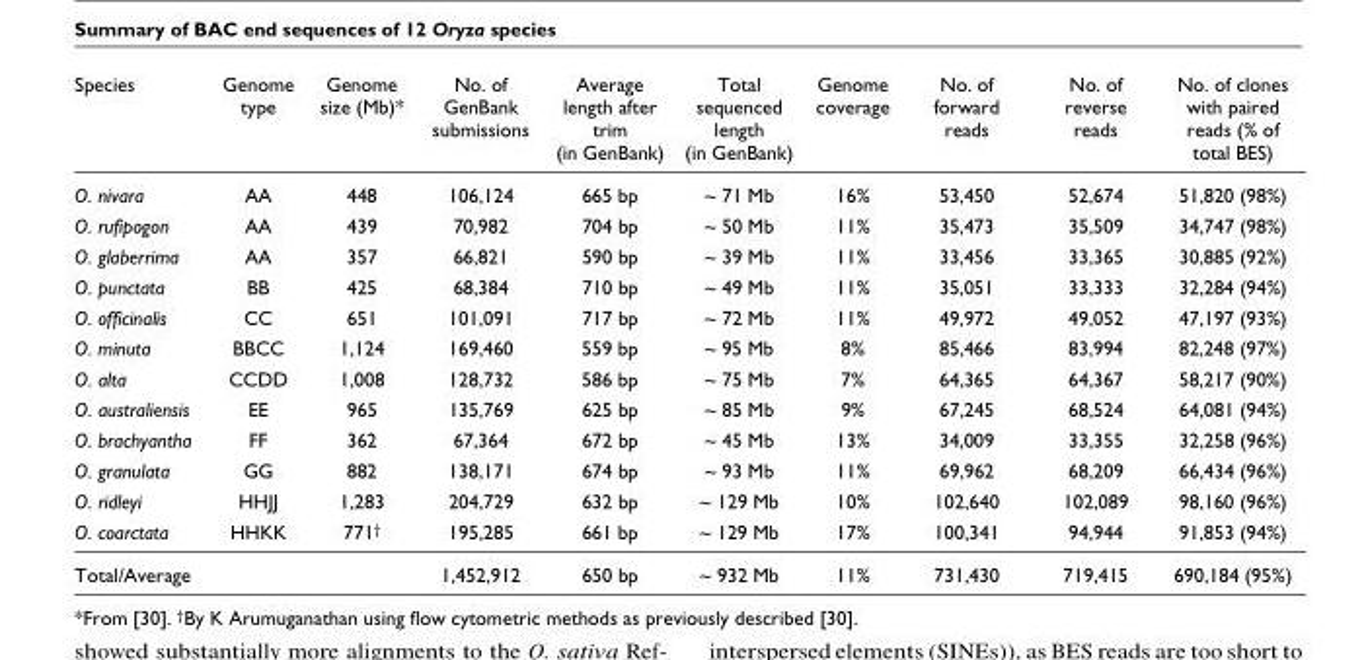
<table><thead><tr><td>Species</td><td>Genome type</td><td>Genome size (Mb)*</td><td>No. of GenBank submissions</td><td>Average length after trim (in GenBank)</td><td>Total sequenced length (in GenBank)</td><td>Genome coverage</td><td>No. of forward reads</td><td>No. of reverse reads</td><td>No. of clones with paired reads (% of total BES)</td></tr></thead><tbody><tr><td>O. nivara</td><td>AA</td><td>448</td><td>106,124</td><td>665 bp</td><td>~ 71 Mb</td><td>16%</td><td>53,450</td><td>52,674</td><td>51,820 (98%)</td></tr><tr><td>O. rufipogon</td><td>AA</td><td>439</td><td>70,982</td><td>704 bp</td><td>~ 50 Mb</td><td>11%</td><td>35,473</td><td>35,509</td><td>34,747 (98%)</td></tr><tr><td>O. glaberrima</td><td>AA</td><td>357</td><td>66,821</td><td>590 bp</td><td>~ 39 Mb</td><td>11%</td><td>33,456</td><td>33,365</td><td>30,885 (92%)</td></tr><tr><td>O. punctata</td><td>BB</td><td>425</td><td>68,384</td><td>710 bp</td><td>~ 49 Mb</td><td>11%</td><td>35,051</td><td>33,333</td><td>32,284 (94%)</td></tr><tr><td>O. officinalis</td><td>CC</td><td>651</td><td>101,091</td><td>717 bp</td><td>~ 72 Mb</td><td>11%</td><td>49,972</td><td>49,052</td><td>47,197 (93%)</td></tr><tr><td>O. minuta</td><td>BBCC</td><td>1,124</td><td>169,460</td><td>559 bp</td><td>~ 95 Mb</td><td>8%</td><td>85,466</td><td>83,994</td><td>82,248 (97%)</td></tr><tr><td>O. alta</td><td>CCDD</td><td>1,008</td><td>128,732</td><td>586 bp</td><td>~ 75 Mb</td><td>7%</td><td>64,365</td><td>64,367</td><td>58,217 (90%)</td></tr><tr><td>O. australiensis</td><td>EE</td><td>965</td><td>135,769</td><td>625 bp</td><td>~ 85 Mb</td><td>9%</td><td>67,245</td><td>68,524</td><td>64,081 (94%)</td></tr><tr><td>O. brachyantha</td><td>FF</td><td>362</td><td>67,364</td><td>672 bp</td><td>~ 45 Mb</td><td>13%</td><td>34,009</td><td>33,355</td><td>32,258 (96%)</td></tr><tr><td>O. granulata</td><td>GG</td><td>882</td><td>138,171</td><td>674 bp</td><td>~ 93 Mb</td><td>11%</td><td>69,962</td><td>68,209</td><td>66,434 (96%)</td></tr><tr><td>O. ridleyi</td><td>HHJJ</td><td>1,283</td><td>204,729</td><td>632 bp</td><td>~ 129 Mb</td><td>10%</td><td>102,640</td><td>102,089</td><td>98,160 (96%)</td></tr><tr><td>O. coarctata</td><td>HHKK</td><td>771<sup>†</sup></td><td>195,285</td><td>661 bp</td><td>~ 129 Mb</td><td>17%</td><td>100,341</td><td>94,944</td><td>91,853 (94%)</td></tr><tr><td>Total/Average</td><td></td><td></td><td>1,452,912</td><td>650 bp</td><td>~ 932 Mb</td><td>11%</td><td>731,430</td><td>719,415</td><td>690,184 (95%)</td></tr></tbody></table>